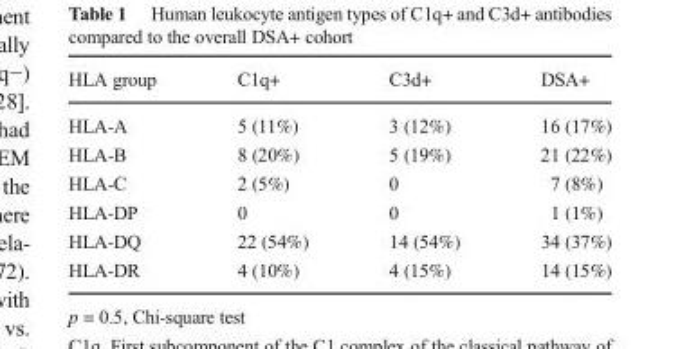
<table><thead><tr><td>HLA group</td><td>C1q+</td><td>C3d+</td><td>DSA+</td></tr></thead><tbody><tr><td>HLA-A</td><td>5 (11%)</td><td>3 (12%)</td><td>16 (17%)</td></tr><tr><td>HLA-B</td><td>8 (20%)</td><td>5 (19%)</td><td>21 (22%)</td></tr><tr><td>HLA-C</td><td>2 (5%)</td><td>0</td><td>7 (8%)</td></tr><tr><td>HLA-DP</td><td>0</td><td>0</td><td>1 (1%)</td></tr><tr><td>HLA-DQ</td><td>22 (54%)</td><td>14 (54%)</td><td>34 (37%)</td></tr><tr><td>HLA-DR</td><td>4 (10%)</td><td>4 (15%)</td><td>14 (15%)</td></tr></tbody></table>